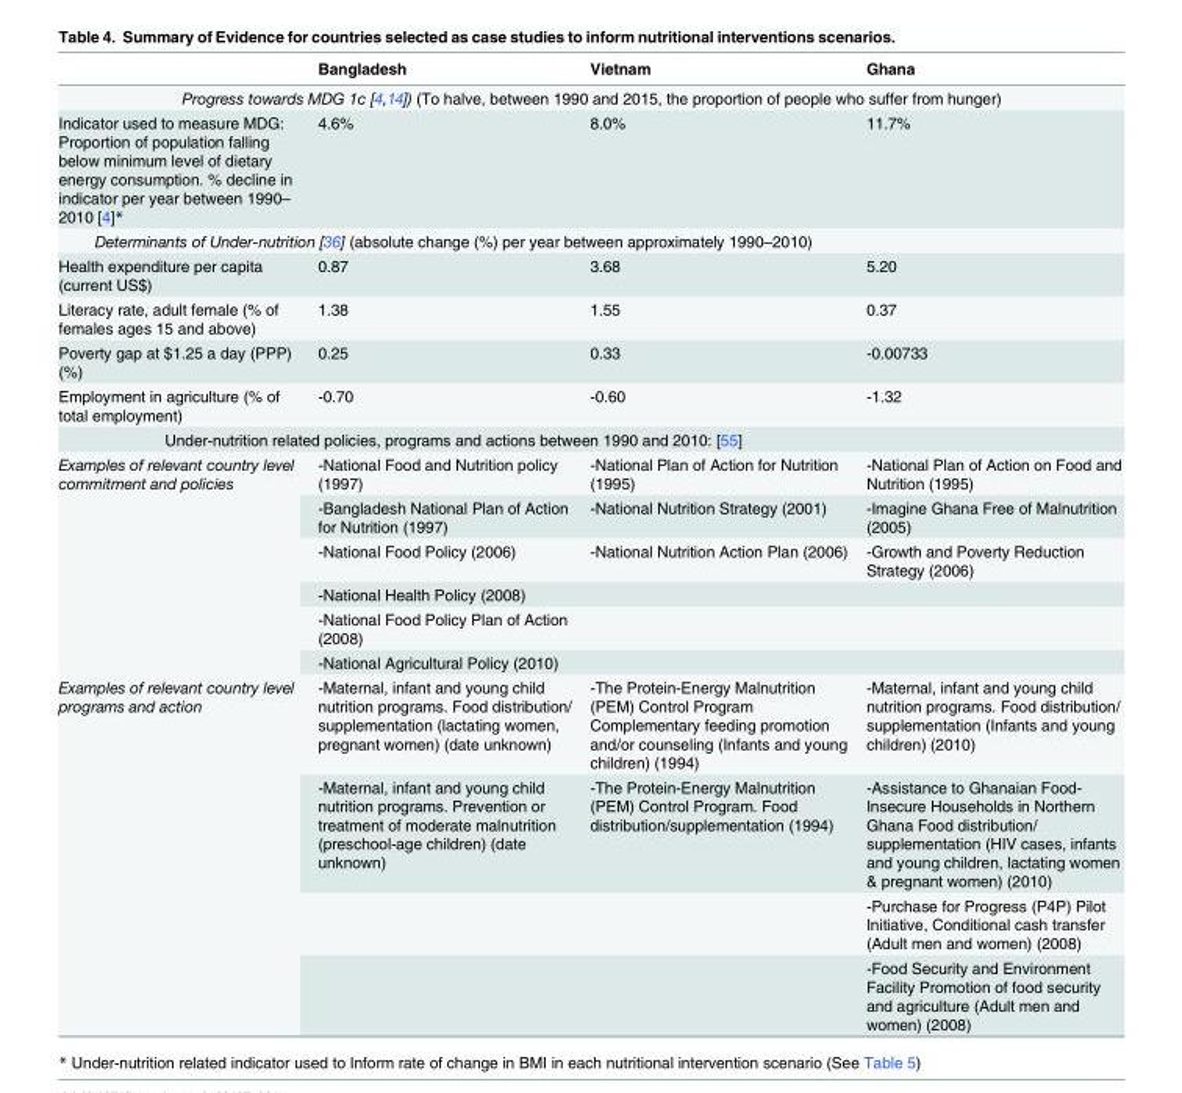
<table><thead><tr><td></td><td>Bangladesh</td><td>Vietnam</td><td>Ghana</td></tr></thead><tbody><tr><td colspan="4">Progress towards MDG 1c [4,14]) (To halve, between 1990 and 2015, the proportion of people who suffer from hunger)</td></tr><tr><td>Indicator used to measure MDG: Proportion of population falling below minimum level of dietary energy consumption. % decline in indicator per year between 1990– 2010 [4]*</td><td>4.6%</td><td>8.0%</td><td>11.7%</td></tr><tr><td colspan="4">Determinants of Under-nutrition [36] (absolute change (%) per year between approximately 1990–2010)</td></tr><tr><td>Health expenditure per capita (current US$)</td><td>0.87</td><td>3.68</td><td>5.20</td></tr><tr><td>Literacy rate, adult female (% of females ages 15 and above)</td><td>1.38</td><td>1.55</td><td>0.37</td></tr><tr><td>Poverty gap at $1.25 a day (PPP) (%)</td><td>0.25</td><td>0.33</td><td>-0.00733</td></tr><tr><td>Employment in agriculture (% of total employment)</td><td>-0.70</td><td>-0.60</td><td>-1.32</td></tr><tr><td colspan="4">Under-nutrition related policies, programs and actions between 1990 and 2010: [55]</td></tr><tr><td rowspan="6">Examples of relevant country level commitment and policies</td><td>-National Food and Nutrition policy (1997)</td><td>-National Plan of Action for Nutrition (1995)</td><td>-National Plan of Action on Food and Nutrition (1995)</td></tr><tr><td>-Bangladesh National Plan of Action for Nutrition (1997)</td><td>-National Nutrition Strategy (2001)</td><td>-Imagine Ghana Free of Malnutrition (2005)</td></tr><tr><td>-National Food Policy (2006)</td><td>-National Nutrition Action Plan (2006)</td><td>-Growth and Poverty Reduction Strategy (2006)</td></tr><tr><td>-National Health Policy (2008)</td><td></td><td></td></tr><tr><td>-National Food Policy Plan of Action (2008)</td><td></td><td></td></tr><tr><td>-National Agricultural Policy (2010)</td><td></td><td></td></tr><tr><td rowspan="4">Examples of relevant country level programs and action</td><td>-Maternal, infant and young child nutrition programs. Food distribution/ supplementation (lactating women, pregnant women) (date unknown)</td><td>-The Protein-Energy Malnutrition (PEM) Control Program Complementary feeding promotion and/or counseling (Infants and young children) (1994)</td><td>-Maternal, infant and young child nutrition programs. Food distribution/ supplementation (Infants and young children) (2010)</td></tr><tr><td>-Maternal, infant and young child nutrition programs. Prevention or treatment of moderate malnutrition (preschool-age children) (date unknown)</td><td>-The Protein-Energy Malnutrition (PEM) Control Program. Food distribution/supplementation (1994)</td><td>-Assistance to Ghanaian Food- Insecure Households in Northern Ghana Food distribution/ supplementation (HIV cases, infants and young children, lactating women &amp; pregnant women) (2010)</td></tr><tr><td></td><td></td><td>-Purchase for Progress (P4P) Pilot Initiative, Conditional cash transfer (Adult men and women) (2008)</td></tr><tr><td></td><td></td><td>-Food Security and Environment Facility Promotion of food security and agriculture (Adult men and women) (2008)</td></tr></tbody></table>